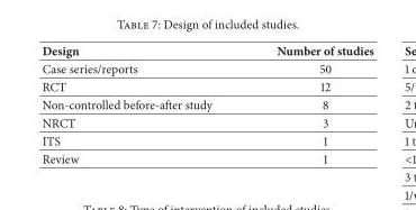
<table><thead><tr><td>Design</td><td>Number of studies</td></tr></thead><tbody><tr><td>Case series/reports</td><td>50</td></tr><tr><td>RCT</td><td>12</td></tr><tr><td>Non-controlled before-after study</td><td>8</td></tr><tr><td>NRCT</td><td>3</td></tr><tr><td>ITS</td><td>1</td></tr><tr><td>Review</td><td>1</td></tr></tbody></table>